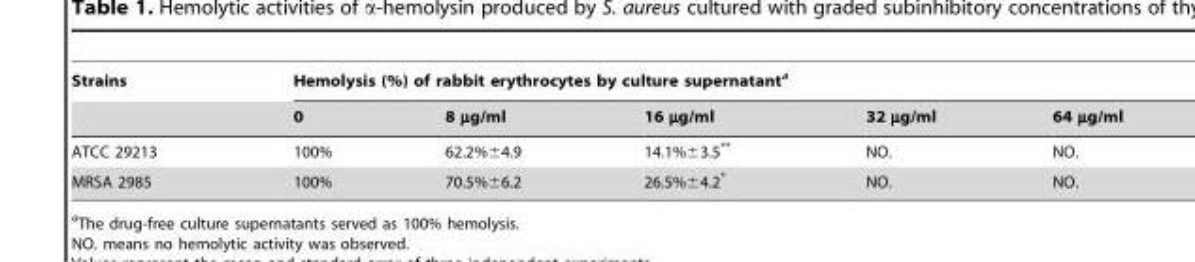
<table><thead><tr><td rowspan="2">Strains</td><td colspan="5">Hemolysis (%) of rabbit erythrocytes by culture supernatant<sup>a</sup></td></tr><tr><td>0</td><td>8 µg/ml</td><td>16 µg/ml</td><td>32 µg/ml</td><td>64 µg/ml</td></tr></thead><tbody><tr><td>ATCC 29213</td><td>100%</td><td>62.2%±4.9</td><td>14.1%±3.5**</td><td>NO.</td><td>NO.</td></tr><tr><td>MRSA 2985</td><td>100%</td><td>70.5%±6.2</td><td>26.5%±4.2*</td><td>NO.</td><td>NO.</td></tr></tbody></table>